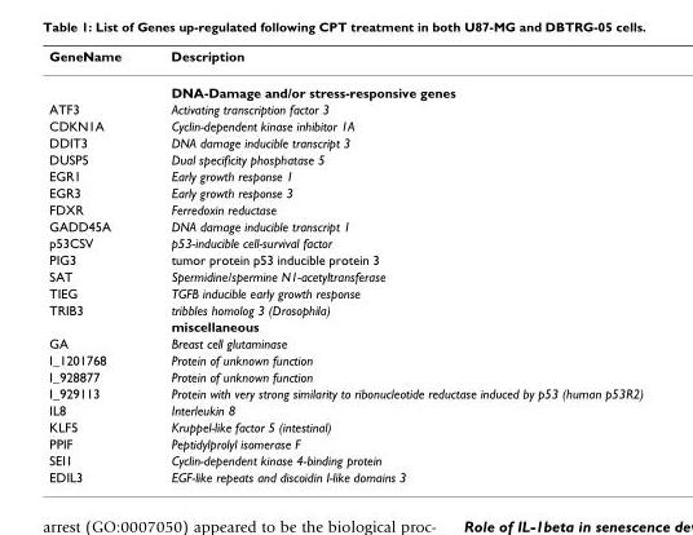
<table><thead><tr><td>GeneName</td><td>Description</td></tr></thead><tbody><tr><td></td><td>DNA-Damage and/or stress-responsive genes</td></tr><tr><td>ATF3</td><td>Activating transcription factor 3</td></tr><tr><td>CDKN1A</td><td>Cyclin-dependent kinase inhibitor 1A</td></tr><tr><td>DDIT3</td><td>DNA damage inducible transcript 3</td></tr><tr><td>DUSP5</td><td>Dual specificity phosphatase 5</td></tr><tr><td>EGR1</td><td>Early growth response 1</td></tr><tr><td>EGR3</td><td>Early growth response 3</td></tr><tr><td>FDXR</td><td>Ferredoxin reductase</td></tr><tr><td>GADD45A</td><td>DNA damage inducible transcript 1</td></tr><tr><td>p53CSV</td><td>p53-inducible cell-survival factor</td></tr><tr><td>PIG3</td><td>tumor protein p53 inducible protein 3</td></tr><tr><td>SAT</td><td>Spermidine/spermine N1-acetyltransferase</td></tr><tr><td>TIEG</td><td>TGFB inducible early growth response</td></tr><tr><td rowspan="2">TRIB3</td><td>tribbles homolog 3 (Drosophila)</td></tr><tr><td>miscellaneous</td></tr><tr><td>GA</td><td>Breast cell glutaminase</td></tr><tr><td>I_1201768</td><td>Protein of unknown function</td></tr><tr><td>I_928877</td><td>Protein of unknown function</td></tr><tr><td>I_929113</td><td>Protein with very strong similarity to ribonucleotide reductase induced by p53 (human p53R2)</td></tr><tr><td>IL8</td><td>Interleukin 8</td></tr><tr><td>KLF5</td><td>Kruppel-like factor 5 (intestinal)</td></tr><tr><td>PPIF</td><td>Peptidylprolyl isomerase F</td></tr><tr><td>SEI1</td><td>Cyclin-dependent kinase 4-binding protein</td></tr><tr><td>EDIL3</td><td>EGF-like repeats and discoidin I-like domains 3</td></tr></tbody></table>